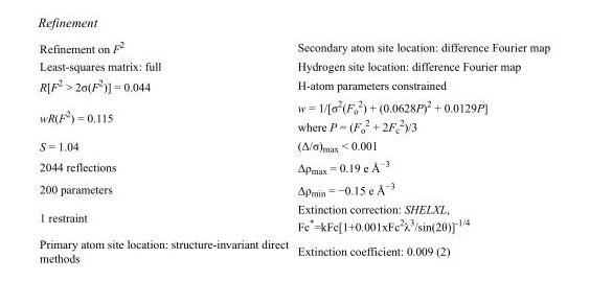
<table><tbody><tr><td>Refinement on F<sup>2</sup></td><td>Secondary atom site location: difference Fourier map</td></tr><tr><td>Least-squares matrix: full</td><td>Hydrogen site location: difference Fourier map</td></tr><tr><td>R[F<sup>2</sup> &gt; 2σ(F<sup>2</sup>)] = 0.044</td><td>H-atom parameters constrained</td></tr><tr><td>wR(F<sup>2</sup>) = 0.115</td><td>w = 1/[σ<sup>2</sup>(F<sub>o</sub> <sup>2</sup>) + (0.0628P)<sup>2</sup> + 0.0129P] where P = (F<sub>o</sub> <sup>2</sup> + 2F<sub>c</sub> <sup>2</sup>)/3</td></tr><tr><td>S = 1.04</td><td>(Δ/σ)<sub>max</sub> &lt; 0.001</td></tr><tr><td>2044 reflections</td><td>Δρ<sub>max</sub> = 0.19 e Å<sup>−3</sup></td></tr><tr><td>200 parameters</td><td>Δρ<sub>min</sub> = −0.15 e Å<sup>−3</sup></td></tr><tr><td>1 restraint</td><td>Extinction correction: SHELXL, Fc*=kFc[1+0.001xFc<sup>2</sup>λ<sup>3</sup>/sin(2θ)]<sup>-1/4</sup></td></tr><tr><td>Primary atom site location: structure-invariant direct methods</td><td>Extinction coefficient: 0.009 (2)</td></tr></tbody></table>